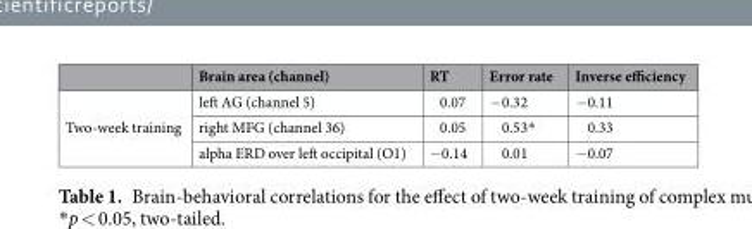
<table><thead><tr><td></td><td>Brain area (channel)</td><td>RT</td><td>Error rate</td><td>Inverse efficiency</td></tr></thead><tbody><tr><td rowspan="3">Two-week training</td><td>left AG (channel 5)</td><td>0.07</td><td>−0.32</td><td>−0.11</td></tr><tr><td>right MFG (channel 36)</td><td>0.05</td><td>0.53*</td><td>0.33</td></tr><tr><td>alpha ERD over left occipital (O1)</td><td>−0.14</td><td>0.01</td><td>−0.07</td></tr></tbody></table>